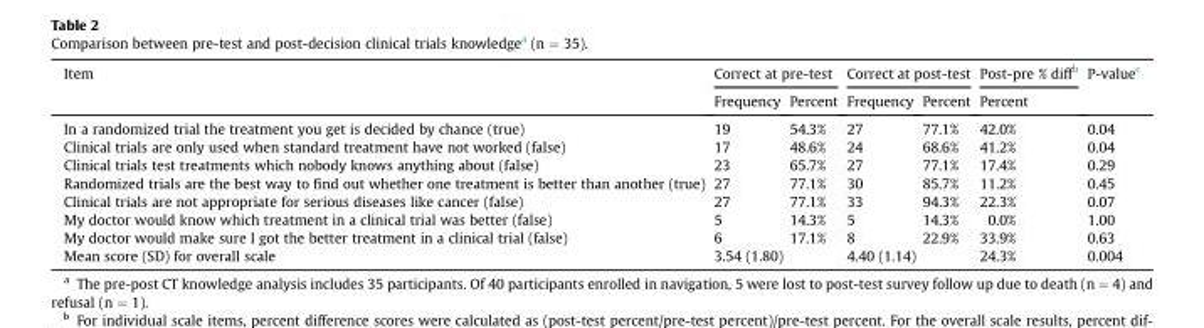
<table><thead><tr><td rowspan="2">Item</td><td colspan="2">Correct at pre-test</td><td colspan="2">Correct at post-test</td><td rowspan="2">Post-pre % diff<sup>b</sup> Percent</td><td rowspan="2">P-value<sup>c</sup></td></tr><tr><td>Frequency</td><td>Percent</td><td>Frequency</td><td>Percent</td></tr></thead><tbody><tr><td>In a randomized trial the treatment you get is decided by chance (true)</td><td>19</td><td>54.3%</td><td>27</td><td>77.1%</td><td>42.0%</td><td>0.04</td></tr><tr><td>Clinical trials are only used when standard treatment have not worked (false)</td><td>17</td><td>48.6%</td><td>24</td><td>68.6%</td><td>41.2%</td><td>0.04</td></tr><tr><td>Clinical trials test treatments which nobody knows anything about (false)</td><td>23</td><td>65.7%</td><td>27</td><td>77.1%</td><td>17.4%</td><td>0.29</td></tr><tr><td>Randomized trials are the best way to find out whether one treatment is better than another (true)</td><td>27</td><td>77.1%</td><td>30</td><td>85.7%</td><td>11.2%</td><td>0.45</td></tr><tr><td>Clinical trials are not appropriate for serious diseases like cancer (false)</td><td>27</td><td>77.1%</td><td>33</td><td>94.3%</td><td>22.3%</td><td>0.07</td></tr><tr><td>My doctor would know which treatment in a clinical trial was better (false)</td><td>5</td><td>14.3%</td><td>5</td><td>14.3%</td><td>0.0%</td><td>1.00</td></tr><tr><td>My doctor would make sure I got the better treatment in a clinical trial (false)</td><td>6</td><td>17.1%</td><td>8</td><td>22.9%</td><td>33.9%</td><td>0.63</td></tr><tr><td>Mean score (SD) for overall scale</td><td colspan="2">3.54 (1.80)</td><td colspan="2">4.40 (1.14)</td><td>24.3%</td><td>0.004</td></tr></tbody></table>